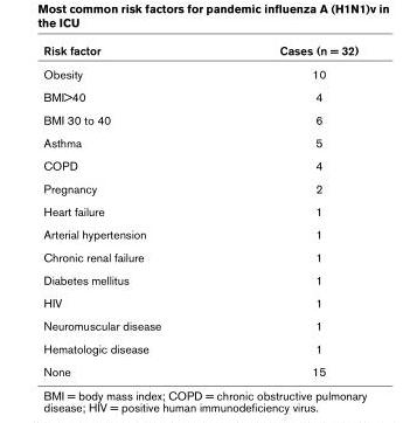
<table><thead><tr><td>Risk factor</td><td>Cases (n = 32)</td></tr></thead><tbody><tr><td>Obesity</td><td>10</td></tr><tr><td>BMI&gt;40</td><td>4</td></tr><tr><td>BMI 30 to 40</td><td>6</td></tr><tr><td>Asthma</td><td>5</td></tr><tr><td>COPD</td><td>4</td></tr><tr><td>Pregnancy</td><td>2</td></tr><tr><td>Heart failure</td><td>1</td></tr><tr><td>Arterial hypertension</td><td>1</td></tr><tr><td>Chronic renal failure</td><td>1</td></tr><tr><td>Diabetes mellitus</td><td>1</td></tr><tr><td>HIV</td><td>1</td></tr><tr><td>Neuromuscular disease</td><td>1</td></tr><tr><td>Hematologic disease</td><td>1</td></tr><tr><td>None</td><td>15</td></tr></tbody></table>